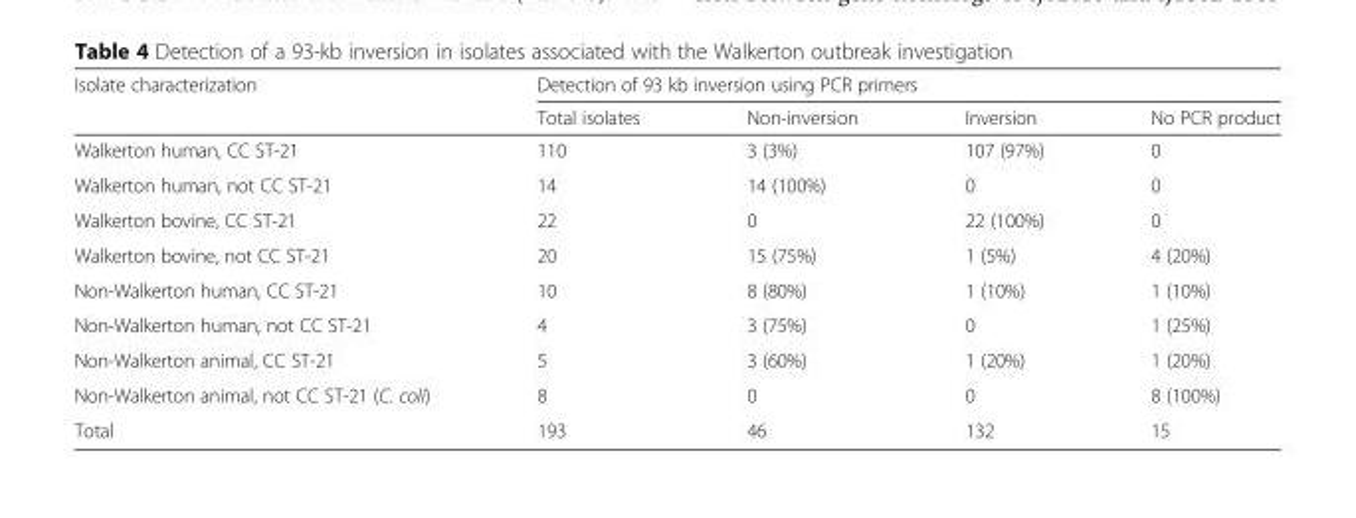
<table><thead><tr><td rowspan="2">Isolate characterization</td><td colspan="4">Detection of 93 kb inversion using PCR primers</td></tr><tr><td>Total isolates</td><td>Non-inversion</td><td>Inversion</td><td>No PCR product</td></tr></thead><tbody><tr><td>Walkerton human, CC ST-21</td><td>110</td><td>3 (3%)</td><td>107 (97%)</td><td>0</td></tr><tr><td>Walkerton human, not CC ST-21</td><td>14</td><td>14 (100%)</td><td>0</td><td>0</td></tr><tr><td>Walkerton bovine, CC ST-21</td><td>22</td><td>0</td><td>22 (100%)</td><td>0</td></tr><tr><td>Walkerton bovine, not CC ST-21</td><td>20</td><td>15 (75%)</td><td>1 (5%)</td><td>4 (20%)</td></tr><tr><td>Non-Walkerton human, CC ST-21</td><td>10</td><td>8 (80%)</td><td>1 (10%)</td><td>1 (10%)</td></tr><tr><td>Non-Walkerton human, not CC ST-21</td><td>4</td><td>3 (75%)</td><td>0</td><td>1 (25%)</td></tr><tr><td>Non-Walkerton animal, CC ST-21</td><td>5</td><td>3 (60%)</td><td>1 (20%)</td><td>1 (20%)</td></tr><tr><td>Non-Walkerton animal, not CC ST-21 (C. coli)</td><td>8</td><td>0</td><td>0</td><td>8 (100%)</td></tr><tr><td>Total</td><td>193</td><td>46</td><td>132</td><td>15</td></tr></tbody></table>